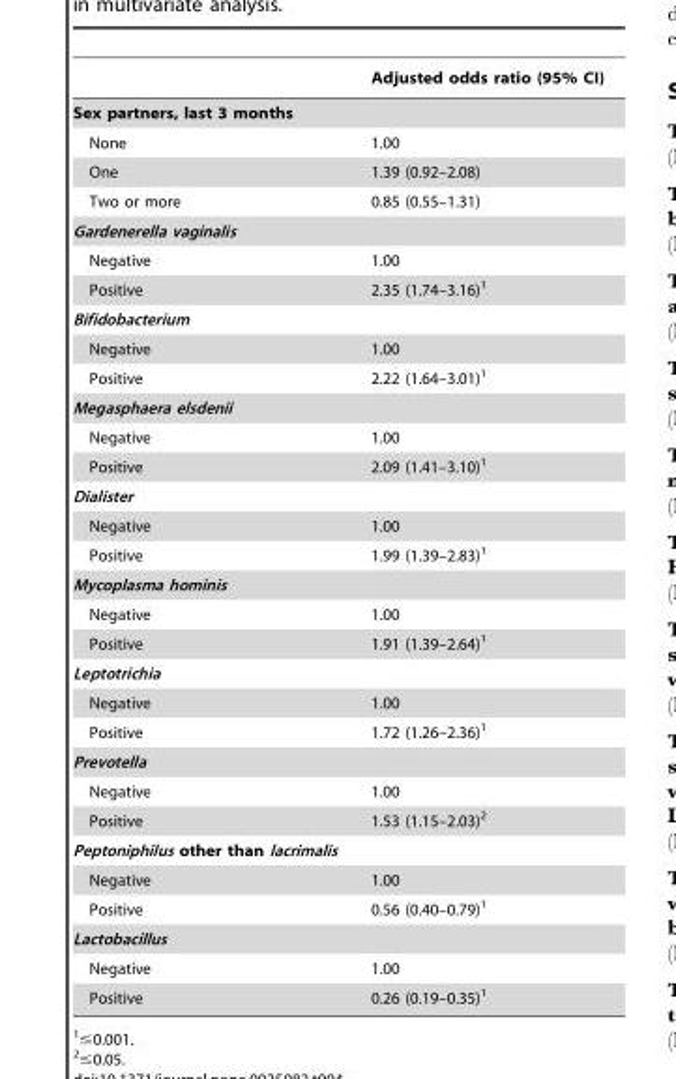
<table><thead><tr><td></td><td>Adjusted odds ratio (95% CI)</td></tr></thead><tbody><tr><td colspan="2">Sex partners, last 3 months</td></tr><tr><td>None</td><td>1.00</td></tr><tr><td>One</td><td>1.39 (0.92–2.08)</td></tr><tr><td>Two or more</td><td>0.85 (0.55–1.31)</td></tr><tr><td colspan="2">Gardenerella vaginalis</td></tr><tr><td>Negative</td><td>1.00</td></tr><tr><td>Positive</td><td>2.35 (1.74–3.16)<sup>1</sup></td></tr><tr><td colspan="2">Bifidobacterium</td></tr><tr><td>Negative</td><td>1.00</td></tr><tr><td>Positive</td><td>2.22 (1.64–3.01)<sup>1</sup></td></tr><tr><td colspan="2">Megasphaera elsdenii</td></tr><tr><td>Negative</td><td>1.00</td></tr><tr><td>Positive</td><td>2.09 (1.41–3.10)<sup>1</sup></td></tr><tr><td colspan="2">Dialister</td></tr><tr><td>Negative</td><td>1.00</td></tr><tr><td>Positive</td><td>1.99 (1.39–2.83)<sup>1</sup></td></tr><tr><td colspan="2">Mycoplasma hominis</td></tr><tr><td>Negative</td><td>1.00</td></tr><tr><td>Positive</td><td>1.91 (1.39–2.64)<sup>1</sup></td></tr><tr><td colspan="2">Leptotrichia</td></tr><tr><td>Negative</td><td>1.00</td></tr><tr><td>Positive</td><td>1.72 (1.26–2.36)<sup>1</sup></td></tr><tr><td colspan="2">Prevotella</td></tr><tr><td>Negative</td><td>1.00</td></tr><tr><td>Positive</td><td>1.53 (1.15–2.03)<sup>2</sup></td></tr><tr><td colspan="2">Peptoniphilus other than lacrimalis</td></tr><tr><td>Negative</td><td>1.00</td></tr><tr><td>Positive</td><td>0.56 (0.40–0.79)<sup>1</sup></td></tr><tr><td colspan="2">Lactobacillus</td></tr><tr><td>Negative</td><td>1.00</td></tr><tr><td>Positive</td><td>0.26 (0.19–0.35)<sup>1</sup></td></tr></tbody></table>